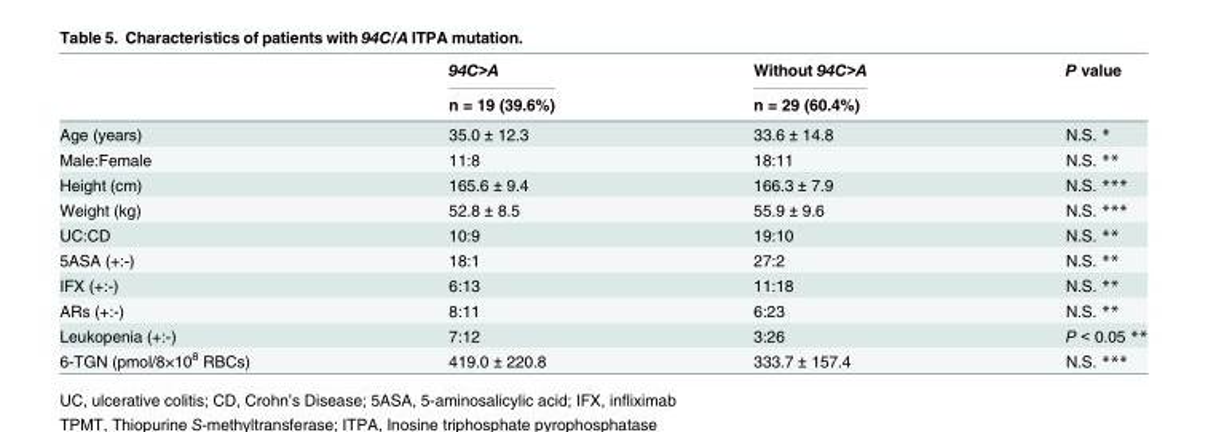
<table><thead><tr><td rowspan="2"></td><td rowspan="2">94C&gt;A n = 19 (39.6%)</td><td rowspan="2">Without 94C&gt;A n = 29 (60.4%)</td><td rowspan="2">P value</td></tr><tr></tr></thead><tbody><tr><td>Age (years)</td><td>35.0 ± 12.3</td><td>33.6 ± 14.8</td><td>N.S. *</td></tr><tr><td>Male:Female</td><td>11:8</td><td>18:11</td><td>N.S. **</td></tr><tr><td>Height (cm)</td><td>165.6 ± 9.4</td><td>166.3 ± 7.9</td><td>N.S. ***</td></tr><tr><td>Weight (kg)</td><td>52.8 ± 8.5</td><td>55.9 ± 9.6</td><td>N.S. ***</td></tr><tr><td>UC:CD</td><td>10:9</td><td>19:10</td><td>N.S. **</td></tr><tr><td>5ASA (+:-)</td><td>18:1</td><td>27:2</td><td>N.S. **</td></tr><tr><td>IFX (+:-)</td><td>6:13</td><td>11:18</td><td>N.S. **</td></tr><tr><td>ARs (+:-)</td><td>8:11</td><td>6:23</td><td>N.S. **</td></tr><tr><td>Leukopenia (+:-)</td><td>7:12</td><td>3:26</td><td>P &lt; 0.05 **</td></tr><tr><td>6-TGN (pmol/8×10<sup>8</sup> RBCs)</td><td>419.0 ± 220.8</td><td>333.7 ± 157.4</td><td>N.S. ***</td></tr></tbody></table>